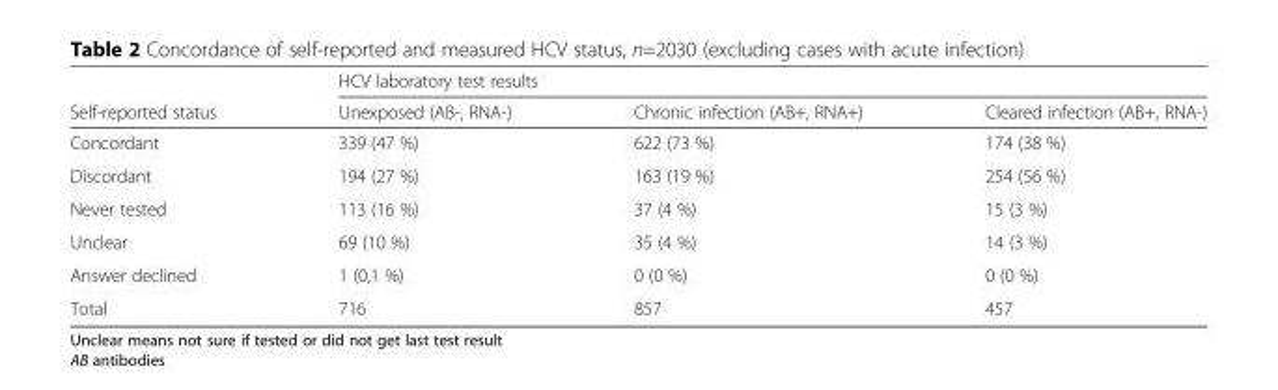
<table><thead><tr><td rowspan="2">Self-reported status</td><td colspan="3">HCV laboratory test results</td></tr><tr><td>Unexposed (AB-, RNA-)</td><td>Chronic infection (AB+, RNA+)</td><td>Cleared infection (AB+, RNA-)</td></tr></thead><tbody><tr><td>Concordant</td><td>339 (47 %)</td><td>622 (73 %)</td><td>174 (38 %)</td></tr><tr><td>Discordant</td><td>194 (27 %)</td><td>163 (19 %)</td><td>254 (56 %)</td></tr><tr><td>Never tested</td><td>113 (16 %)</td><td>37 (4 %)</td><td>15 (3 %)</td></tr><tr><td>Unclear</td><td>69 (10 %)</td><td>35 (4 %)</td><td>14 (3 %)</td></tr><tr><td>Answer declined</td><td>1 (0,1 %)</td><td>0 (0 %)</td><td>0 (0 %)</td></tr><tr><td>Total</td><td>716</td><td>857</td><td>457</td></tr></tbody></table>